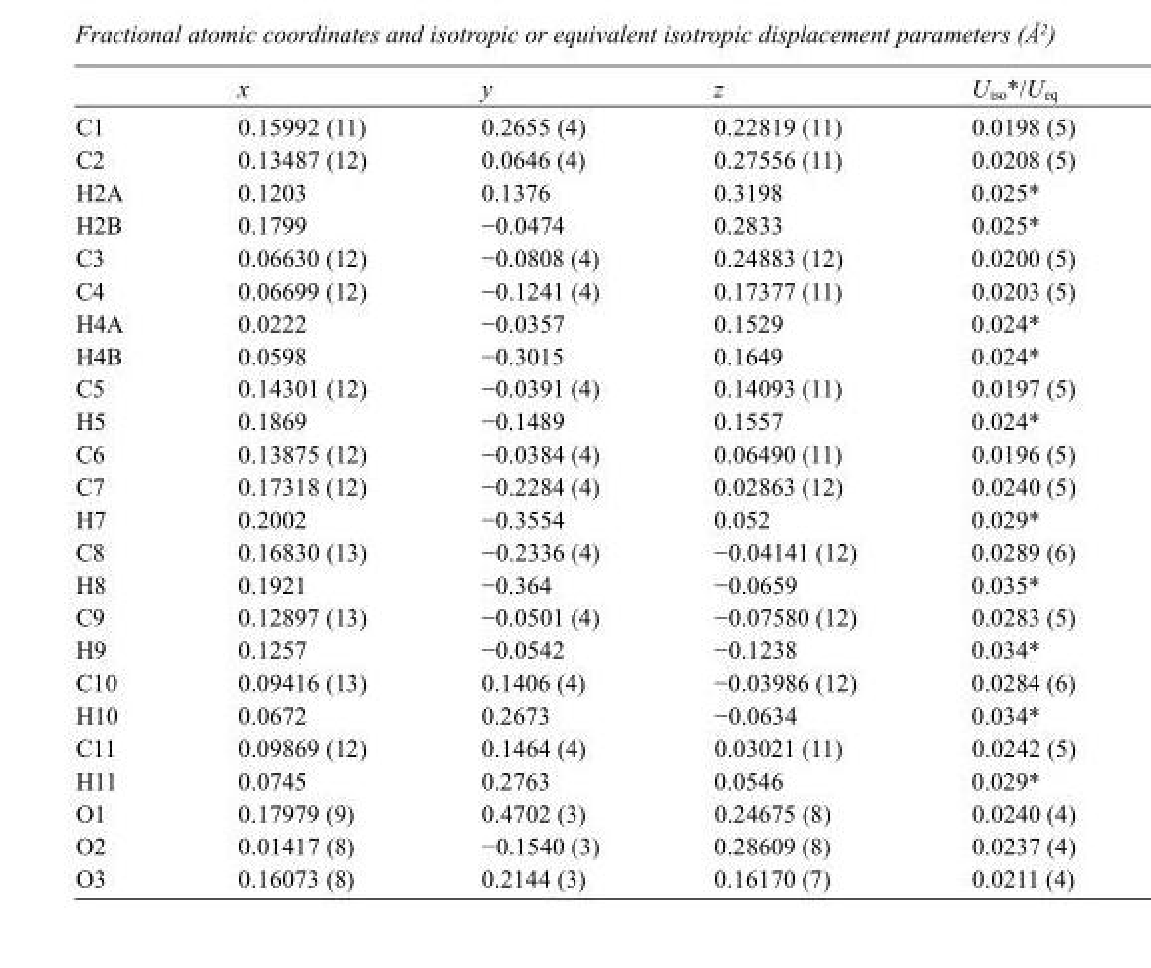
<table><thead><tr><td></td><td>x</td><td>y</td><td>z</td><td>U<sub>iso</sub>*/U<sub>eq</sub></td></tr></thead><tbody><tr><td>C1</td><td>0.15992 (11)</td><td>0.2655 (4)</td><td>0.22819 (11)</td><td>0.0198 (5)</td></tr><tr><td>C2</td><td>0.13487 (12)</td><td>0.0646 (4)</td><td>0.27556 (11)</td><td>0.0208 (5)</td></tr><tr><td>H2A</td><td>0.1203</td><td>0.1376</td><td>0.3198</td><td>0.025*</td></tr><tr><td>H2B</td><td>0.1799</td><td>−0.0474</td><td>0.2833</td><td>0.025*</td></tr><tr><td>C3</td><td>0.06630 (12)</td><td>−0.0808 (4)</td><td>0.24883 (12)</td><td>0.0200 (5)</td></tr><tr><td>C4</td><td>0.06699 (12)</td><td>−0.1241 (4)</td><td>0.17377 (11)</td><td>0.0203 (5)</td></tr><tr><td>H4A</td><td>0.0222</td><td>−0.0357</td><td>0.1529</td><td>0.024*</td></tr><tr><td>H4B</td><td>0.0598</td><td>−0.3015</td><td>0.1649</td><td>0.024*</td></tr><tr><td>C5</td><td>0.14301 (12)</td><td>−0.0391 (4)</td><td>0.14093 (11)</td><td>0.0197 (5)</td></tr><tr><td>H5</td><td>0.1869</td><td>−0.1489</td><td>0.1557</td><td>0.024*</td></tr><tr><td>C6</td><td>0.13875 (12)</td><td>−0.0384 (4)</td><td>0.06490 (11)</td><td>0.0196 (5)</td></tr><tr><td>C7</td><td>0.17318 (12)</td><td>−0.2284 (4)</td><td>0.02863 (12)</td><td>0.0240 (5)</td></tr><tr><td>H7</td><td>0.2002</td><td>−0.3554</td><td>0.052</td><td>0.029*</td></tr><tr><td>C8</td><td>0.16830 (13)</td><td>−0.2336 (4)</td><td>−0.04141 (12)</td><td>0.0289 (6)</td></tr><tr><td>H8</td><td>0.1921</td><td>−0.364</td><td>−0.0659</td><td>0.035*</td></tr><tr><td>C9</td><td>0.12897 (13)</td><td>−0.0501 (4)</td><td>−0.07580 (12)</td><td>0.0283 (5)</td></tr><tr><td>H9</td><td>0.1257</td><td>−0.0542</td><td>−0.1238</td><td>0.034*</td></tr><tr><td>C10</td><td>0.09416 (13)</td><td>0.1406 (4)</td><td>−0.03986 (12)</td><td>0.0284 (6)</td></tr><tr><td>H10</td><td>0.0672</td><td>0.2673</td><td>−0.0634</td><td>0.034*</td></tr><tr><td>C11</td><td>0.09869 (12)</td><td>0.1464 (4)</td><td>0.03021 (11)</td><td>0.0242 (5)</td></tr><tr><td>H11</td><td>0.0745</td><td>0.2763</td><td>0.0546</td><td>0.029*</td></tr><tr><td>O1</td><td>0.17979 (9)</td><td>0.4702 (3)</td><td>0.24675 (8)</td><td>0.0240 (4)</td></tr><tr><td>O2</td><td>0.01417 (8)</td><td>−0.1540 (3)</td><td>0.28609 (8)</td><td>0.0237 (4)</td></tr><tr><td>O3</td><td>0.16073 (8)</td><td>0.2144 (3)</td><td>0.16170 (7)</td><td>0.0211 (4)</td></tr></tbody></table>